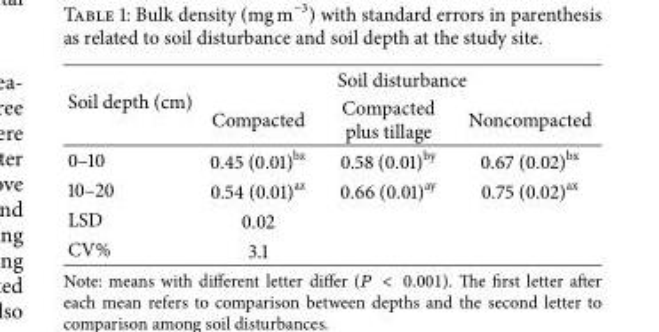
<table><thead><tr><td rowspan="2">Soil depth (cm)</td><td colspan="3">Soil disturbance</td></tr><tr><td>Compacted</td><td>Compacted plus tillage</td><td>Noncompacted</td></tr></thead><tbody><tr><td>0–10</td><td>0.45 (0.01)<sup>bz</sup></td><td>0.58 (0.01)<sup>by</sup></td><td>0.67 (0.02)<sup>bx</sup></td></tr><tr><td>10–20</td><td>0.54 (0.01)<sup>az</sup></td><td>0.66 (0.01)<sup>ay</sup></td><td>0.75 (0.02)<sup>ax</sup></td></tr><tr><td>LSD</td><td>0.02</td><td></td><td></td></tr><tr><td>CV%</td><td>3.1</td><td></td><td></td></tr></tbody></table>